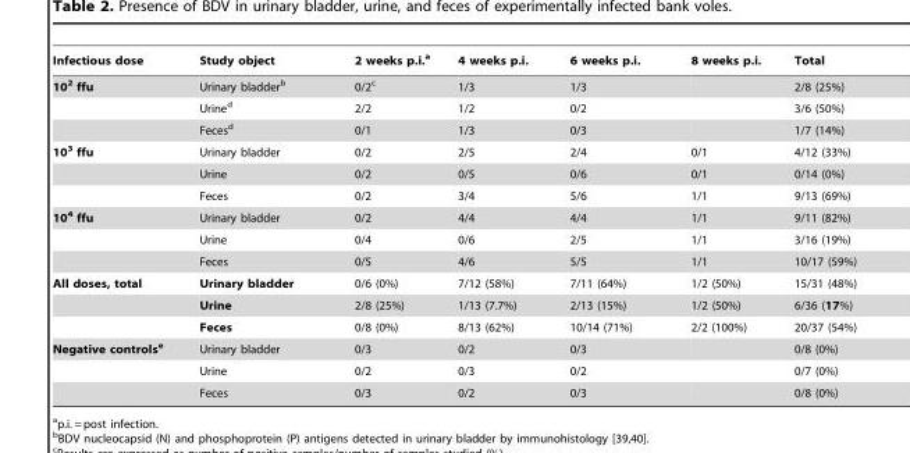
<table><thead><tr><td>Infectious dose</td><td>Study object</td><td>2 weeks p.i.<sup>a</sup></td><td>4 weeks p.i.</td><td>6 weeks p.i.</td><td>8 weeks p.i.</td><td>Total</td></tr></thead><tbody><tr><td rowspan="3">10<sup>2</sup> ffu</td><td>Urinary bladder<sup>b</sup></td><td>0/2<sup>c</sup></td><td>1/3</td><td>1/3</td><td></td><td>2/8 (25%)</td></tr><tr><td>Urine<sup>d</sup></td><td>2/2</td><td>1/2</td><td>0/2</td><td></td><td>3/6 (50%)</td></tr><tr><td>Feces<sup>d</sup></td><td>0/1</td><td>1/3</td><td>0/3</td><td></td><td>1/7 (14%)</td></tr><tr><td rowspan="3">10<sup>3</sup> ffu</td><td>Urinary bladder</td><td>0/2</td><td>2/5</td><td>2/4</td><td>0/1</td><td>4/12 (33%)</td></tr><tr><td>Urine</td><td>0/2</td><td>0/5</td><td>0/6</td><td>0/1</td><td>0/14 (0%)</td></tr><tr><td>Feces</td><td>0/2</td><td>3/4</td><td>5/6</td><td>1/1</td><td>9/13 (69%)</td></tr><tr><td rowspan="3">10<sup>4</sup> ffu</td><td>Urinary bladder</td><td>0/2</td><td>4/4</td><td>4/4</td><td>1/1</td><td>9/11 (82%)</td></tr><tr><td>Urine</td><td>0/4</td><td>0/6</td><td>2/5</td><td>1/1</td><td>3/16 (19%)</td></tr><tr><td>Feces</td><td>0/5</td><td>4/6</td><td>5/5</td><td>1/1</td><td>10/17 (59%)</td></tr><tr><td rowspan="3">All doses, total</td><td>Urinary bladder</td><td>0/6 (0%)</td><td>7/12 (58%)</td><td>7/11 (64%)</td><td>1/2 (50%)</td><td>15/31 (48%)</td></tr><tr><td>Urine</td><td>2/8 (25%)</td><td>1/13 (7.7%)</td><td>2/13 (15%)</td><td>1/2 (50%)</td><td>6/36 (17%)</td></tr><tr><td>Feces</td><td>0/8 (0%)</td><td>8/13 (62%)</td><td>10/14 (71%)</td><td>2/2 (100%)</td><td>20/37 (54%)</td></tr><tr><td rowspan="3">Negative controlse</td><td>Urinary bladder</td><td>0/3</td><td>0/2</td><td>0/3</td><td></td><td>0/8 (0%)</td></tr><tr><td>Urine</td><td>0/2</td><td>0/3</td><td>0/2</td><td></td><td>0/7 (0%)</td></tr><tr><td>Feces</td><td>0/3</td><td>0/2</td><td>0/3</td><td></td><td>0/8 (0%)</td></tr></tbody></table>